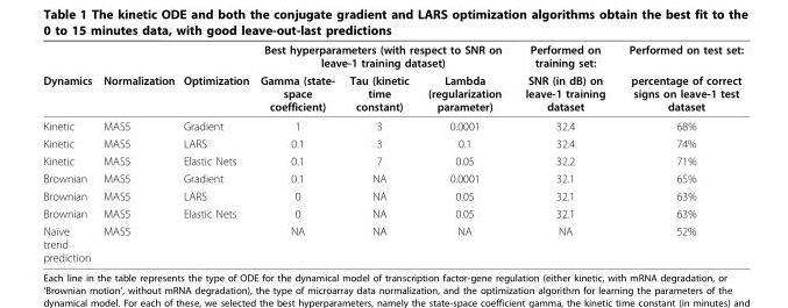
<table><thead><tr><td rowspan="2">Dynamics</td><td rowspan="2">Normalization</td><td rowspan="2">Optimization</td><td colspan="3">Best hyperparameters (with respect to SNR on leave-1 training dataset)</td><td rowspan="2">Performed on training set: SNR (in dB) on leave-1 training dataset</td><td rowspan="2">Performed on test set: percentage of correct signs on leave-1 test dataset</td></tr><tr><td>Gamma (state- space coefficient)</td><td>Tau (kinetic time constant)</td><td>Lambda (regularization parameter)</td></tr></thead><tbody><tr><td>Kinetic</td><td>MAS5</td><td>Gradient</td><td>1</td><td>3</td><td>0.0001</td><td>32.4</td><td>68%</td></tr><tr><td>Kinetic</td><td>MAS5</td><td>LARS</td><td>0.1</td><td>3</td><td>0.1</td><td>32.4</td><td>74%</td></tr><tr><td>Kinetic</td><td>MAS5</td><td>Elastic Nets</td><td>0.1</td><td>7</td><td>0.05</td><td>32.2</td><td>71%</td></tr><tr><td>Brownian</td><td>MAS5</td><td>Gradient</td><td>0.1</td><td>NA</td><td>0.0001</td><td>32.1</td><td>65%</td></tr><tr><td>Brownian</td><td>MAS5</td><td>LARS</td><td>0</td><td>NA</td><td>0.05</td><td>32.1</td><td>63%</td></tr><tr><td>Brownian</td><td>MAS5</td><td>Elastic Nets</td><td>0</td><td>NA</td><td>0.05</td><td>32.1</td><td>63%</td></tr><tr><td>Naïve trend prediction</td><td>MAS5</td><td></td><td>NA</td><td>NA</td><td>NA</td><td>NA</td><td>52%</td></tr></tbody></table>